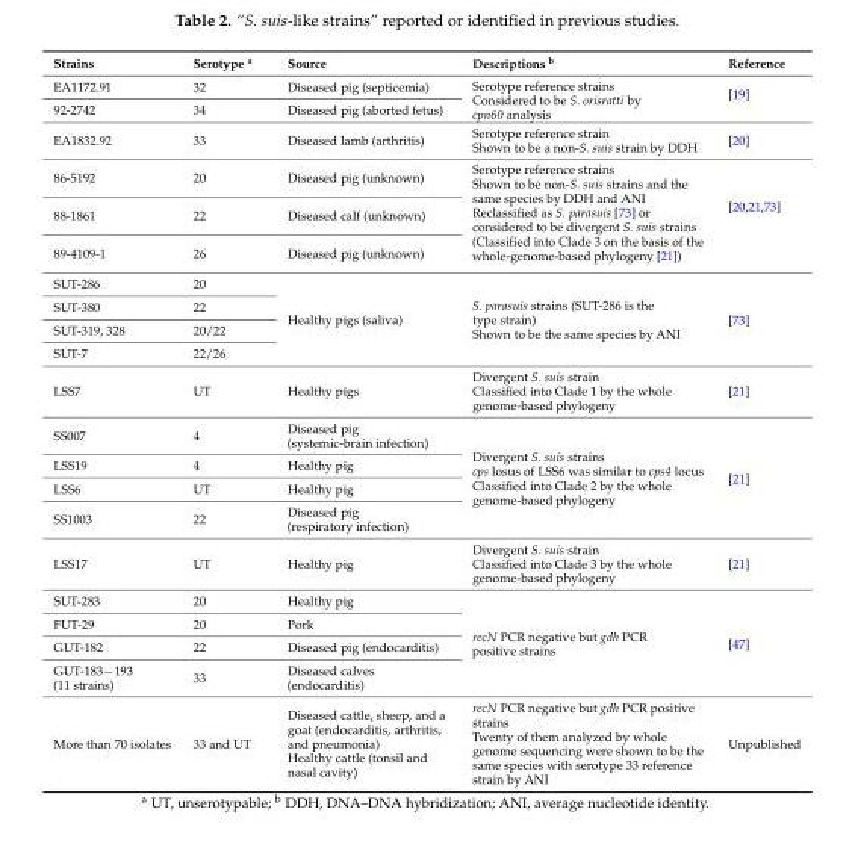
<table><thead><tr><td>Strains</td><td>Serotype <sup>a</sup></td><td>Source</td><td>Descriptions <sup>b</sup></td><td>Reference</td></tr></thead><tbody><tr><td>EA1172.91</td><td>32</td><td>Diseased pig (septicemia)</td><td rowspan="2">Serotype reference strains Considered to be S. orisratti by cpn60 analysis</td><td rowspan="2">[19]</td></tr><tr><td>92-2742</td><td>34</td><td>Diseased pig (aborted fetus)</td></tr><tr><td>EA1832.92</td><td>33</td><td>Diseased lamb (arthritis)</td><td>Serotype reference strain Shown to be a non-S. suis strain by DDH</td><td>[20]</td></tr><tr><td>86-5192</td><td>20</td><td>Diseased pig (unknown)</td><td rowspan="3">Serotype reference strains Shown to be non-S. suis strains and the same species by DDH and ANI Reclassified as S. parasuis [73] or considered to be divergent S. suis strains (Classified into Clade 3 on the basis of the whole-genome-based phylogeny [21])</td><td rowspan="3">[20,21,73]</td></tr><tr><td>88-1861</td><td>22</td><td>Diseased calf (unknown)</td></tr><tr><td>89-4109-1</td><td>26</td><td>Diseased pig (unknown)</td></tr><tr><td>SUT-286</td><td>20</td><td rowspan="4">Healthy pigs (saliva)</td><td rowspan="4">S. parasuis strains (SUT-286 is the type strain) Shown to be the same species by ANI</td><td rowspan="4">[73]</td></tr><tr><td>SUT-380</td><td>22</td></tr><tr><td>SUT-319, 328</td><td>20/22</td></tr><tr><td>SUT-7</td><td>22/26</td></tr><tr><td>LSS7</td><td>UT</td><td>Healthy pigs</td><td>Divergent S. suis strain Classified into Clade 1 by the whole genome-based phylogeny</td><td>[21]</td></tr><tr><td>SS007</td><td>4</td><td>Diseased pig (systemic-brain infection)</td><td rowspan="4">Divergent S. suis strains cps losus of LSS6 was similar to cps4 locus Classified into Clade 2 by the whole genome-based phylogeny</td><td rowspan="4">[21]</td></tr><tr><td>LSS19</td><td>4</td><td>Healthy pig</td></tr><tr><td>LSS6</td><td>UT</td><td>Healthy pig</td></tr><tr><td>SS1003</td><td>22</td><td>Diseased pig (respiratory infection)</td></tr><tr><td>LSS17</td><td>UT</td><td>Healthy pig</td><td>Divergent S. suis strain Classified into Clade 3 by the whole genome-based phylogeny</td><td>[21]</td></tr><tr><td>SUT-283</td><td>20</td><td>Healthy pig</td><td rowspan="4">recN PCR negative but gdh PCR positive strains</td><td rowspan="4">[47]</td></tr><tr><td>FUT-29</td><td>20</td><td>Pork</td></tr><tr><td>GUT-182</td><td>22</td><td>Diseased pig (endocarditis)</td></tr><tr><td>GUT-183−193 (11 strains)</td><td>33</td><td>Diseased calves (endocarditis)</td></tr><tr><td>More than 70 isolates</td><td>33 and UT</td><td>Diseased cattle, sheep, and a goat (endocarditis, arthritis, and pneumonia) Healthy cattle (tonsil and nasal cavity)</td><td>recN PCR negative but gdh PCR positive strains Twenty of them analyzed by whole genome sequencing were shown to be the same species with serotype 33 reference strain by ANI</td><td>Unpublished</td></tr></tbody></table>